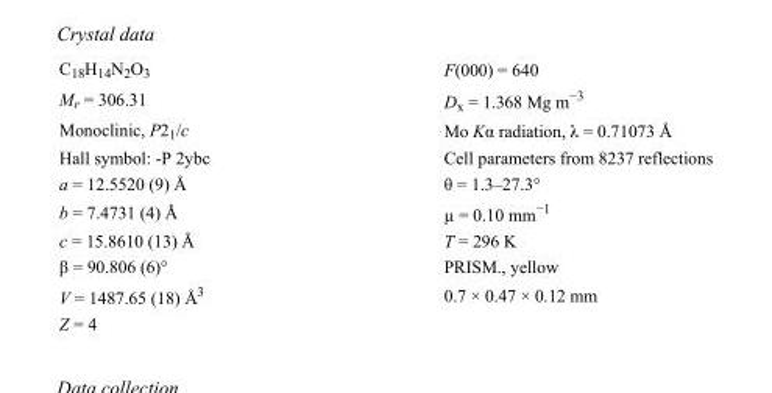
<table><tbody><tr><td>C<sub>18</sub>H<sub>14</sub>N<sub>2</sub>O<sub>3</sub></td><td>F(000) = 640</td></tr><tr><td>M<sub>r</sub> = 306.31</td><td>D<sub>x</sub> = 1.368 Mg m<sup>−3</sup></td></tr><tr><td>Monoclinic, P2<sub>1</sub>/c</td><td>Mo Kα radiation, λ = 0.71073 Å</td></tr><tr><td>Hall symbol: -P 2ybc</td><td>Cell parameters from 8237 reflections</td></tr><tr><td>a = 12.5520 (9) Å</td><td>θ = 1.3–27.3°</td></tr><tr><td>b = 7.4731 (4) Å</td><td>µ = 0.10 mm<sup>−1</sup></td></tr><tr><td>c = 15.8610 (13) Å</td><td>T = 296 K</td></tr><tr><td>β = 90.806 (6)°</td><td>PRISM., yellow</td></tr><tr><td>V = 1487.65 (18) Å<sup>3</sup></td><td>0.7 × 0.47 × 0.12 mm</td></tr><tr><td>Z = 4</td><td></td></tr></tbody></table>